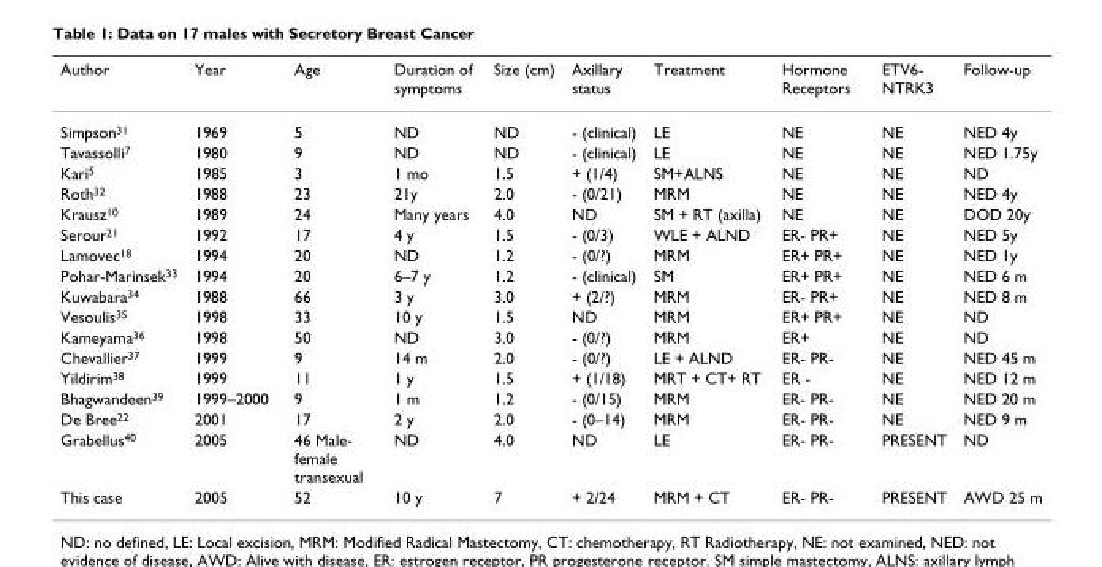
<table><thead><tr><td>Author</td><td>Year</td><td>Age</td><td>Duration of symptoms</td><td>Size (cm)</td><td>Axillary status</td><td>Treatment</td><td>Hormone Receptors</td><td>ETV6- NTRK3</td><td>Follow-up</td></tr></thead><tbody><tr><td>Simpson<sup>31</sup></td><td>1969</td><td>5</td><td>ND</td><td>ND</td><td>- (clinical)</td><td>LE</td><td>NE</td><td>NE</td><td>NED 4y</td></tr><tr><td>Tavassolli<sup>7</sup></td><td>1980</td><td>9</td><td>ND</td><td>ND</td><td>- (clinical)</td><td>LE</td><td>NE</td><td>NE</td><td>NED 1.75y</td></tr><tr><td>Kari<sup>5</sup></td><td>1985</td><td>3</td><td>1 mo</td><td>1.5</td><td>+ (1/4)</td><td>SM+ALNS</td><td>NE</td><td>NE</td><td>ND</td></tr><tr><td>Roth<sup>32</sup></td><td>1988</td><td>23</td><td>21y</td><td>2.0</td><td>- (0/21)</td><td>MRM</td><td>NE</td><td>NE</td><td>NED 4y</td></tr><tr><td>Krausz<sup>10</sup></td><td>1989</td><td>24</td><td>Many years</td><td>4.0</td><td>ND</td><td>SM + RT (axilla)</td><td>NE</td><td>NE</td><td>DOD 20y</td></tr><tr><td>Serour<sup>21</sup></td><td>1992</td><td>17</td><td>4 y</td><td>1.5</td><td>- (0/3)</td><td>WLE + ALND</td><td>ER- PR+</td><td>NE</td><td>NED 5y</td></tr><tr><td>Lamovec<sup>18</sup></td><td>1994</td><td>20</td><td>ND</td><td>1.2</td><td>- (0/?)</td><td>MRM</td><td>ER+ PR+</td><td>NE</td><td>NED 1y</td></tr><tr><td>Pohar-Marinsek<sup>33</sup></td><td>1994</td><td>20</td><td>6–7 y</td><td>1.2</td><td>- (clinical)</td><td>SM</td><td>ER+ PR+</td><td>NE</td><td>NED 6 m</td></tr><tr><td>Kuwabara<sup>34</sup></td><td>1988</td><td>66</td><td>3 y</td><td>3.0</td><td>+ (2/?)</td><td>MRM</td><td>ER- PR+</td><td>NE</td><td>NED 8 m</td></tr><tr><td>Vesoulis<sup>35</sup></td><td>1998</td><td>33</td><td>10 y</td><td>1.5</td><td>ND</td><td>MRM</td><td>ER+ PR+</td><td>NE</td><td>ND</td></tr><tr><td>Kameyama<sup>36</sup></td><td>1998</td><td>50</td><td>ND</td><td>3.0</td><td>- (0/?)</td><td>MRM</td><td>ER+</td><td>NE</td><td>ND</td></tr><tr><td>Chevallier<sup>37</sup></td><td>1999</td><td>9</td><td>14 m</td><td>2.0</td><td>- (0/?)</td><td>LE + ALND</td><td>ER- PR-</td><td>NE</td><td>NED 45 m</td></tr><tr><td>Yildirim<sup>38</sup></td><td>1999</td><td>11</td><td>1 y</td><td>1.5</td><td>+ (1/18)</td><td>MRT + CT+ RT</td><td>ER -</td><td>NE</td><td>NED 12 m</td></tr><tr><td>Bhagwandeen<sup>39</sup></td><td>1999–2000</td><td>9</td><td>1 m</td><td>1.2</td><td>- (0/15)</td><td>MRM</td><td>ER- PR-</td><td>NE</td><td>NED 20 m</td></tr><tr><td>De Bree<sup>22</sup></td><td>2001</td><td>17</td><td>2 y</td><td>2.0</td><td>- (0–14)</td><td>MRM</td><td>ER- PR-</td><td>NE</td><td>NED 9 m</td></tr><tr><td>Grabellus<sup>40</sup></td><td>2005</td><td>46 Male- female transexual</td><td>ND</td><td>4.0</td><td>ND</td><td>LE</td><td>ER- PR-</td><td>PRESENT</td><td>ND</td></tr><tr><td>This case</td><td>2005</td><td>52</td><td>10 y</td><td>7</td><td>+ 2/24</td><td>MRM + CT</td><td>ER- PR-</td><td>PRESENT</td><td>AWD 25 m</td></tr></tbody></table>